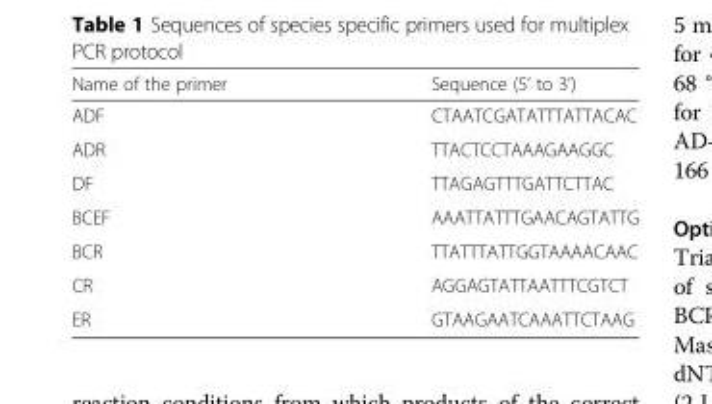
<table><thead><tr><td>Name of the primer</td><td>Sequence (5’ to 3’)</td></tr></thead><tbody><tr><td>ADF</td><td>CTAATCGATATTTATTACAC</td></tr><tr><td>ADR</td><td>TTACTCCTAAAGAAGGC</td></tr><tr><td>DF</td><td>TTAGAGTTTGATTCTTAC</td></tr><tr><td>BCEF</td><td>AAATTATTTGAACAGTATTG</td></tr><tr><td>BCR</td><td>TTATTTATTGGTAAAACAAC</td></tr><tr><td>CR</td><td>AGGAGTATTAATTTCGTCT</td></tr><tr><td>ER</td><td>GTAAGAATCAAATTCTAAG</td></tr></tbody></table>